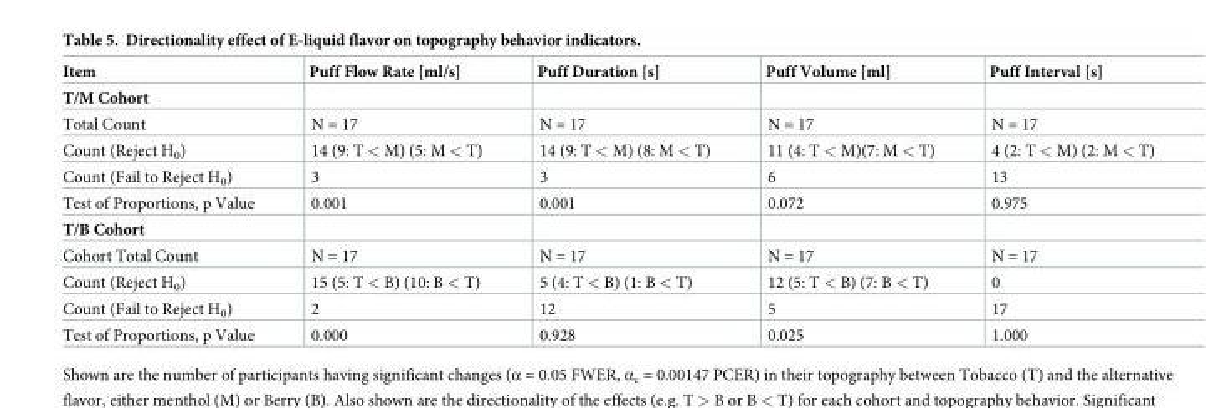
<table><thead><tr><td>Item</td><td>Puff Flow Rate [ml/s]</td><td>Puff Duration [s]</td><td>Puff Volume [ml]</td><td>Puff Interval [s]</td></tr></thead><tbody><tr><td colspan="5">T/M Cohort</td></tr><tr><td>Total Count</td><td>N = 17</td><td>N = 17</td><td>N = 17</td><td>N = 17</td></tr><tr><td>Count (Reject H<sub>0</sub>)</td><td>14 (9: T &lt; M) (5: M &lt; T)</td><td>14 (9: T &lt; M) (8: M &lt; T)</td><td>11 (4: T &lt; M)(7: M &lt; T)</td><td>4 (2: T &lt; M) (2: M &lt; T)</td></tr><tr><td>Count (Fail to Reject H<sub>0</sub>)</td><td>3</td><td>3</td><td>6</td><td>13</td></tr><tr><td>Test of Proportions, p Value</td><td>0.001</td><td>0.001</td><td>0.072</td><td>0.975</td></tr><tr><td colspan="5">T/B Cohort</td></tr><tr><td>Cohort Total Count</td><td>N = 17</td><td>N = 17</td><td>N = 17</td><td>N = 17</td></tr><tr><td>Count (Reject H<sub>0</sub>)</td><td>15 (5: T &lt; B) (10: B &lt; T)</td><td>5 (4: T &lt; B) (1: B &lt; T)</td><td>12 (5: T &lt; B) (7: B &lt; T)</td><td>0</td></tr><tr><td>Count (Fail to Reject H<sub>0</sub>)</td><td>2</td><td>12</td><td>5</td><td>17</td></tr><tr><td>Test of Proportions, p Value</td><td>0.000</td><td>0.928</td><td>0.025</td><td>1.000</td></tr></tbody></table>